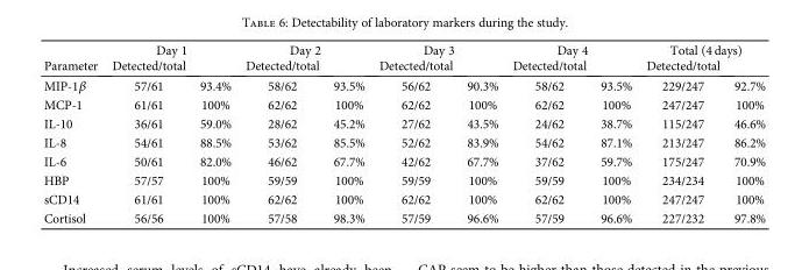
<table><thead><tr><td rowspan="2">Parameter</td><td colspan="2">Day 1</td><td colspan="2">Day 2</td><td colspan="2">Day 3</td><td colspan="2">Day 4</td><td colspan="2">Total (4 days)</td></tr><tr><td>Detected/total</td><td></td><td>Detected/total</td><td></td><td>Detected/total</td><td></td><td>Detected/total</td><td></td><td>Detected/total</td><td></td></tr></thead><tbody><tr><td>MIP-1β</td><td>57/61</td><td>93.4%</td><td>58/62</td><td>93.5%</td><td>56/62</td><td>90.3%</td><td>58/62</td><td>93.5%</td><td>229/247</td><td>92.7%</td></tr><tr><td>MCP-1</td><td>61/61</td><td>100%</td><td>62/62</td><td>100%</td><td>62/62</td><td>100%</td><td>62/62</td><td>100%</td><td>247/247</td><td>100%</td></tr><tr><td>IL-10</td><td>36/61</td><td>59.0%</td><td>28/62</td><td>45.2%</td><td>27/62</td><td>43.5%</td><td>24/62</td><td>38.7%</td><td>115/247</td><td>46.6%</td></tr><tr><td>IL-8</td><td>54/61</td><td>88.5%</td><td>53/62</td><td>85.5%</td><td>52/62</td><td>83.9%</td><td>54/62</td><td>87.1%</td><td>213/247</td><td>86.2%</td></tr><tr><td>IL-6</td><td>50/61</td><td>82.0%</td><td>46/62</td><td>67.7%</td><td>42/62</td><td>67.7%</td><td>37/62</td><td>59.7%</td><td>175/247</td><td>70.9%</td></tr><tr><td>HBP</td><td>57/57</td><td>100%</td><td>59/59</td><td>100%</td><td>59/59</td><td>100%</td><td>59/59</td><td>100%</td><td>234/234</td><td>100%</td></tr><tr><td>sCD14</td><td>61/61</td><td>100%</td><td>62/62</td><td>100%</td><td>62/62</td><td>100%</td><td>62/62</td><td>100%</td><td>247/247</td><td>100%</td></tr><tr><td>Cortisol</td><td>56/56</td><td>100%</td><td>57/58</td><td>98.3%</td><td>57/59</td><td>96.6%</td><td>57/59</td><td>96.6%</td><td>227/232</td><td>97.8%</td></tr></tbody></table>